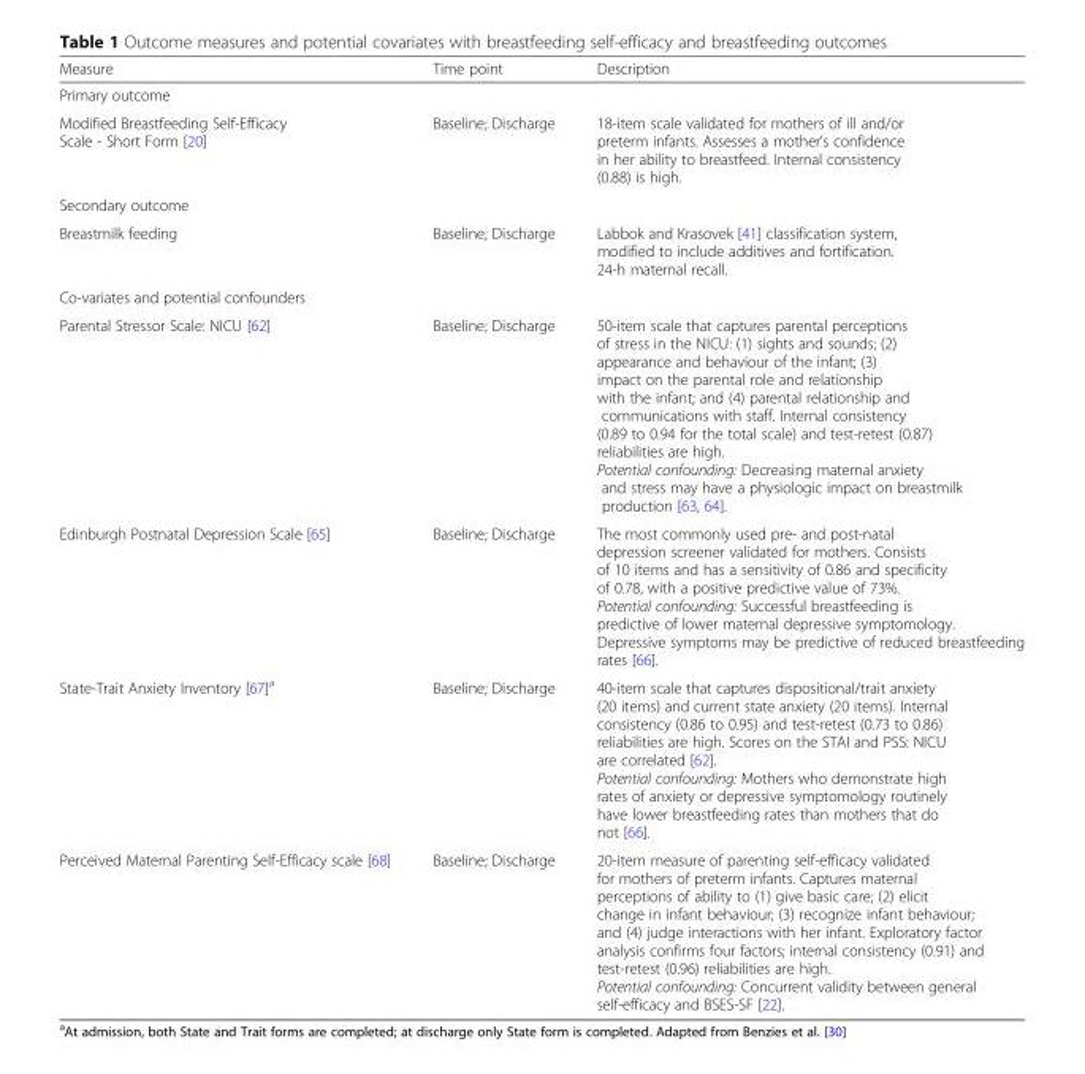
<table><thead><tr><td>Measure</td><td>Time point</td><td>Description</td></tr></thead><tbody><tr><td colspan="3">Primary outcome</td></tr><tr><td>Modified Breastfeeding Self-Efficacy Scale - Short Form [20]</td><td>Baseline; Discharge</td><td>18-item scale validated for mothers of ill and/or preterm infants. Assesses a mother’s confidence in her ability to breastfeed. Internal consistency (0.88) is high.</td></tr><tr><td colspan="3">Secondary outcome</td></tr><tr><td>Breastmilk feeding</td><td>Baseline; Discharge</td><td>Labbok and Krasovek [41] classification system, modified to include additives and fortification. 24-h maternal recall.</td></tr><tr><td colspan="3">Co-variates and potential confounders</td></tr><tr><td>Parental Stressor Scale: NICU [62]</td><td>Baseline; Discharge</td><td>50-item scale that captures parental perceptions of stress in the NICU: (1) sights and sounds; (2) appearance and behaviour of the infant; (3) impact on the parental role and relationship with the infant; and (4) parental relationship and communications with staff. Internal consistency (0.89 to 0.94 for the total scale) and test-retest (0.87) reliabilities are high. Potential confounding: Decreasing maternal anxiety and stress may have a physiologic impact on breastmilk production [63, 64].</td></tr><tr><td>Edinburgh Postnatal Depression Scale [65]</td><td>Baseline; Discharge</td><td>The most commonly used pre- and post-natal depression screener validated for mothers. Consists of 10 items and has a sensitivity of 0.86 and specificity of 0.78, with a positive predictive value of 73%. Potential confounding: Successful breastfeeding is predictive of lower maternal depressive symptomology. Depressive symptoms may be predictive of reduced breastfeeding rates [66].</td></tr><tr><td>State-Trait Anxiety Inventory [67]<sup>a</sup></td><td>Baseline; Discharge</td><td>40-item scale that captures dispositional/trait anxiety (20 items) and current state anxiety (20 items). Internal consistency (0.86 to 0.95) and test-retest (0.73 to 0.86) reliabilities are high. Scores on the STAI and PSS: NICU are correlated [62]. Potential confounding: Mothers who demonstrate high rates of anxiety or depressive symptomology routinely have lower breastfeeding rates than mothers that do not [66].</td></tr><tr><td>Perceived Maternal Parenting Self-Efficacy scale [68]</td><td>Baseline; Discharge</td><td>20-item measure of parenting self-efficacy validated for mothers of preterm infants. Captures maternal perceptions of ability to (1) give basic care; (2) elicit change in infant behaviour; (3) recognize infant behaviour; and (4) judge interactions with her infant. Exploratory factor analysis confirms four factors; internal consistency (0.91) and test-retest (0.96) reliabilities are high. Potential confounding: Concurrent validity between general self-efficacy and BSES-SF [22].</td></tr></tbody></table>